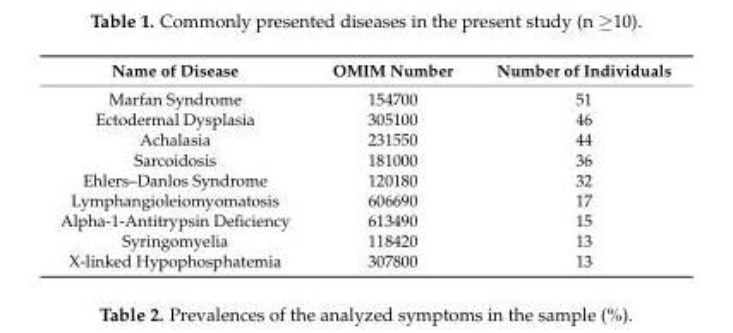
<table><thead><tr><td>Name of Disease</td><td>OMIM Number</td><td>Number of Individuals</td></tr></thead><tbody><tr><td>Marfan Syndrome</td><td>154700</td><td>51</td></tr><tr><td>Ectodermal Dysplasia</td><td>305100</td><td>46</td></tr><tr><td>Achalasia</td><td>231550</td><td>44</td></tr><tr><td>Sarcoidosis</td><td>181000</td><td>36</td></tr><tr><td>Ehlers–Danlos Syndrome</td><td>120180</td><td>32</td></tr><tr><td>Lymphangioleiomyomatosis</td><td>606690</td><td>17</td></tr><tr><td>Alpha-1-Antitrypsin Deficiency</td><td>613490</td><td>15</td></tr><tr><td>Syringomyelia</td><td>118420</td><td>13</td></tr><tr><td>X-linked Hypophosphatemia</td><td>307800</td><td>13</td></tr></tbody></table>